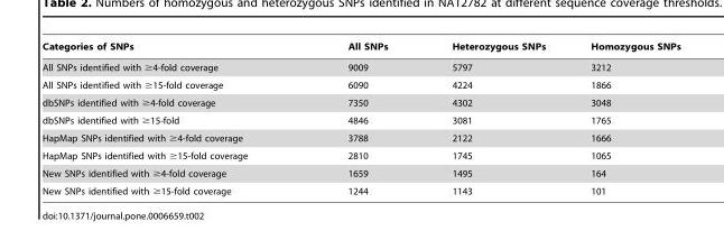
<table><thead><tr><td>Categories of SNPs</td><td>All SNPs</td><td>Heterozygous SNPs</td><td>Homozygous SNPs</td></tr></thead><tbody><tr><td>All SNPs identified with ≥4-fold coverage</td><td>9009</td><td>5797</td><td>3212</td></tr><tr><td>All SNPs identified with ≥15-fold coverage</td><td>6090</td><td>4224</td><td>1866</td></tr><tr><td>dbSNPs identified with ≥4-fold coverage</td><td>7350</td><td>4302</td><td>3048</td></tr><tr><td>dbSNPs identified with ≥15-fold</td><td>4846</td><td>3081</td><td>1765</td></tr><tr><td>HapMap SNPs identified with ≥4-fold coverage</td><td>3788</td><td>2122</td><td>1666</td></tr><tr><td>HapMap SNPs identified with ≥15-fold coverage</td><td>2810</td><td>1745</td><td>1065</td></tr><tr><td>New SNPs identified with ≥4-fold coverage</td><td>1659</td><td>1495</td><td>164</td></tr><tr><td>New SNPs identified with ≥15-fold coverage</td><td>1244</td><td>1143</td><td>101</td></tr></tbody></table>